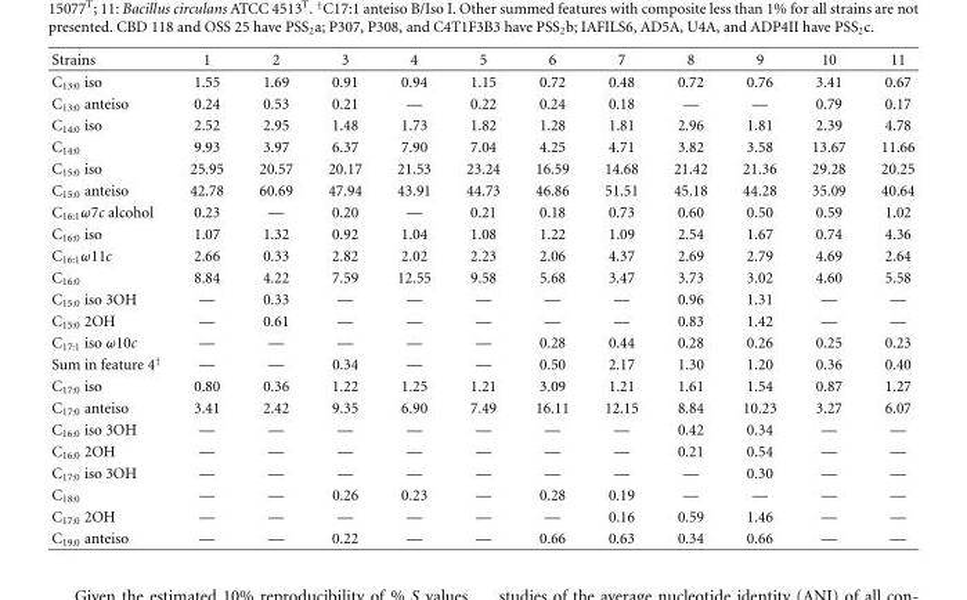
<table><thead><tr><td>Strains</td><td>1</td><td>2</td><td>3</td><td>4</td><td>5</td><td>6</td><td>7</td><td>8</td><td>9</td><td>10</td><td>11</td></tr></thead><tbody><tr><td>C<sub>13:0</sub> iso</td><td>1.55</td><td>1.69</td><td>0.91</td><td>0.94</td><td>1.15</td><td>0.72</td><td>0.48</td><td>0.72</td><td>0.76</td><td>3.41</td><td>0.67</td></tr><tr><td>C<sub>13:0</sub> anteiso</td><td>0.24</td><td>0.53</td><td>0.21</td><td>—</td><td>0.22</td><td>0.24</td><td>0.18</td><td>—</td><td>—</td><td>0.79</td><td>0.17</td></tr><tr><td>C<sub>14:0</sub> iso</td><td>2.52</td><td>2.95</td><td>1.48</td><td>1.73</td><td>1.82</td><td>1.28</td><td>1.81</td><td>2.96</td><td>1.81</td><td>2.39</td><td>4.78</td></tr><tr><td>C<sub>14:0</sub></td><td>9.93</td><td>3.97</td><td>6.37</td><td>7.90</td><td>7.04</td><td>4.25</td><td>4.71</td><td>3.82</td><td>3.58</td><td>13.67</td><td>11.66</td></tr><tr><td>C<sub>15:0</sub> iso</td><td>25.95</td><td>20.57</td><td>20.17</td><td>21.53</td><td>23.24</td><td>16.59</td><td>14.68</td><td>21.42</td><td>21.36</td><td>29.28</td><td>20.25</td></tr><tr><td>C<sub>15:0</sub> anteiso</td><td>42.78</td><td>60.69</td><td>47.94</td><td>43.91</td><td>44.73</td><td>46.86</td><td>51.51</td><td>45.18</td><td>44.28</td><td>35.09</td><td>40.64</td></tr><tr><td>C<sub>16:1</sub>ω7c alcohol</td><td>0.23</td><td>—</td><td>0.20</td><td>—</td><td>0.21</td><td>0.18</td><td>0.73</td><td>0.60</td><td>0.50</td><td>0.59</td><td>1.02</td></tr><tr><td>C<sub>16:0</sub> iso</td><td>1.07</td><td>1.32</td><td>0.92</td><td>1.04</td><td>1.08</td><td>1.22</td><td>1.09</td><td>2.54</td><td>1.67</td><td>0.74</td><td>4.36</td></tr><tr><td>C<sub>16:1</sub>ω11c</td><td>2.66</td><td>0.33</td><td>2.82</td><td>2.02</td><td>2.23</td><td>2.06</td><td>4.37</td><td>2.69</td><td>2.79</td><td>4.69</td><td>2.64</td></tr><tr><td>C<sub>16:0</sub></td><td>8.84</td><td>4.22</td><td>7.59</td><td>12.55</td><td>9.58</td><td>5.68</td><td>3.47</td><td>3.73</td><td>3.02</td><td>4.60</td><td>5.58</td></tr><tr><td>C<sub>15:0</sub> iso 3OH</td><td>—</td><td>0.33</td><td>—</td><td>—</td><td>—</td><td>—</td><td>—</td><td>0.96</td><td>1.31</td><td>—</td><td>—</td></tr><tr><td>C<sub>15:0</sub> 2OH</td><td>—</td><td>0.61</td><td>—</td><td>—</td><td>—</td><td>—</td><td>—</td><td>0.83</td><td>1.42</td><td>—</td><td>—</td></tr><tr><td>C<sub>17:1</sub> iso ω10c</td><td>—</td><td>—</td><td>—</td><td>—</td><td>—</td><td>0.28</td><td>0.44</td><td>0.28</td><td>0.26</td><td>0.25</td><td>0.23</td></tr><tr><td>Sum in feature 4<sup>†</sup></td><td>—</td><td>—</td><td>0.34</td><td>—</td><td>—</td><td>0.50</td><td>2.17</td><td>1.30</td><td>1.20</td><td>0.36</td><td>0.40</td></tr><tr><td>C<sub>17:0</sub> iso</td><td>0.80</td><td>0.36</td><td>1.22</td><td>1.25</td><td>1.21</td><td>3.09</td><td>1.21</td><td>1.61</td><td>1.54</td><td>0.87</td><td>1.27</td></tr><tr><td>C<sub>17:0</sub> anteiso</td><td>3.41</td><td>2.42</td><td>9.35</td><td>6.90</td><td>7.49</td><td>16.11</td><td>12.15</td><td>8.84</td><td>10.23</td><td>3.27</td><td>6.07</td></tr><tr><td>C<sub>16:0</sub> iso 3OH</td><td>—</td><td>—</td><td>—</td><td>—</td><td>—</td><td>—</td><td>—</td><td>0.42</td><td>0.34</td><td>—</td><td>—</td></tr><tr><td>C<sub>16:0</sub> 2OH</td><td>—</td><td>—</td><td>—</td><td>—</td><td>—</td><td>—</td><td>—</td><td>0.21</td><td>0.54</td><td>—</td><td>—</td></tr><tr><td>C<sub>17:0</sub> iso 3OH</td><td>—</td><td>—</td><td>—</td><td>—</td><td>—</td><td>—</td><td>—</td><td>—</td><td>0.30</td><td>—</td><td>—</td></tr><tr><td>C<sub>18:0</sub></td><td>—</td><td>—</td><td>0.26</td><td>0.23</td><td>—</td><td>0.28</td><td>0.19</td><td>—</td><td>—</td><td>—</td><td>—</td></tr><tr><td>C<sub>17:0</sub> 2OH</td><td>—</td><td>—</td><td>—</td><td>—</td><td>—</td><td>—</td><td>0.16</td><td>0.59</td><td>1.46</td><td>—</td><td>—</td></tr><tr><td>C<sub>19:0</sub> anteiso</td><td>—</td><td>—</td><td>0.22</td><td>—</td><td>—</td><td>0.66</td><td>0.63</td><td>0.34</td><td>0.66</td><td>—</td><td>—</td></tr></tbody></table>